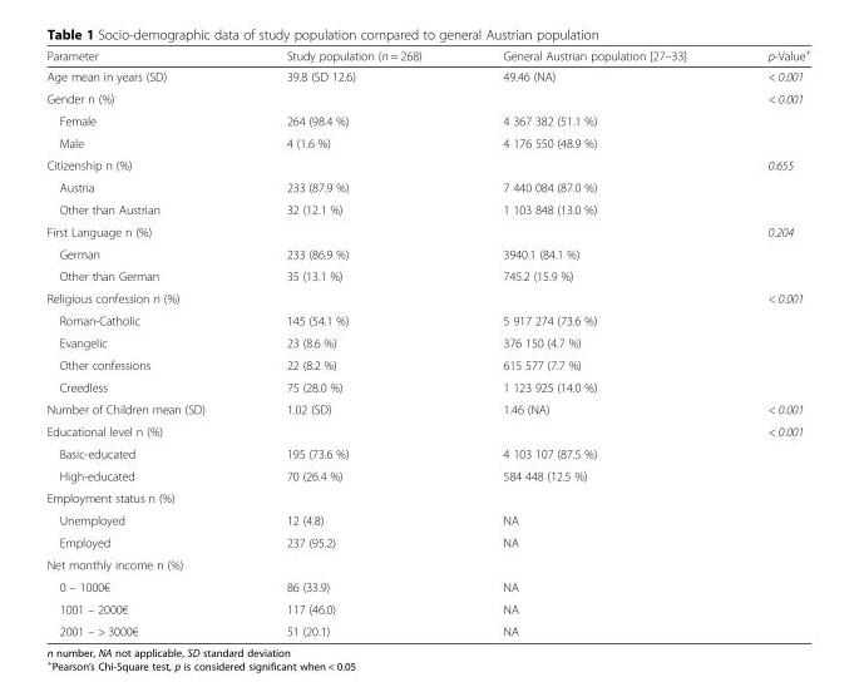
<table><thead><tr><td>Parameter</td><td>Study population (n = 268)</td><td>General Austrian population [27–33]</td><td>p-Value<sup>+</sup></td></tr></thead><tbody><tr><td>Age mean in years (SD)</td><td>39.8 (SD 12.6)</td><td>49.46 (NA)</td><td>&lt; 0.001</td></tr><tr><td>Gender n (%)</td><td></td><td></td><td>&lt; 0.001</td></tr><tr><td>Female</td><td>264 (98.4 %)</td><td>4 367 382 (51.1 %)</td><td></td></tr><tr><td>Male</td><td>4 (1.6 %)</td><td>4 176 550 (48.9 %)</td><td></td></tr><tr><td>Citizenship n (%)</td><td></td><td></td><td>0.655</td></tr><tr><td>Austria</td><td>233 (87.9 %)</td><td>7 440 084 (87.0 %)</td><td></td></tr><tr><td>Other than Austrian</td><td>32 (12.1 %)</td><td>1 103 848 (13.0 %)</td><td></td></tr><tr><td>First Language n (%)</td><td></td><td></td><td>0.204</td></tr><tr><td>German</td><td>233 (86.9 %)</td><td>3940.1 (84.1 %)</td><td></td></tr><tr><td>Other than German</td><td>35 (13.1 %)</td><td>745.2 (15.9 %)</td><td></td></tr><tr><td>Religious confession n (%)</td><td></td><td></td><td>&lt; 0.001</td></tr><tr><td>Roman-Catholic</td><td>145 (54.1 %)</td><td>5 917 274 (73.6 %)</td><td></td></tr><tr><td>Evangelic</td><td>23 (8.6 %)</td><td>376 150 (4.7 %)</td><td></td></tr><tr><td>Other confessions</td><td>22 (8.2 %)</td><td>615 577 (7.7 %)</td><td></td></tr><tr><td>Creedless</td><td>75 (28.0 %)</td><td>1 123 925 (14.0 %)</td><td></td></tr><tr><td>Number of Children mean (SD)</td><td>1.02 (SD)</td><td>1.46 (NA)</td><td>&lt; 0.001</td></tr><tr><td>Educational level n (%)</td><td></td><td></td><td>&lt; 0.001</td></tr><tr><td>Basic-educated</td><td>195 (73.6 %)</td><td>4 103 107 (87.5 %)</td><td></td></tr><tr><td>High-educated</td><td>70 (26.4 %)</td><td>584 448 (12.5 %)</td><td></td></tr><tr><td colspan="4">Employment status n (%)</td></tr><tr><td>Unemployed</td><td>12 (4.8)</td><td>NA</td><td></td></tr><tr><td>Employed</td><td>237 (95.2)</td><td>NA</td><td></td></tr><tr><td colspan="4">Net monthly income n (%)</td></tr><tr><td>0 – 1000€</td><td>86 (33.9)</td><td>NA</td><td></td></tr><tr><td>1001 – 2000€</td><td>117 (46.0)</td><td>NA</td><td></td></tr><tr><td>2001 – &gt; 3000€</td><td>51 (20.1)</td><td>NA</td><td></td></tr></tbody></table>